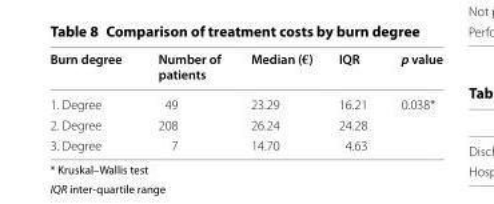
<table><thead><tr><td>Burn degree</td><td>Number of patients</td><td>Median (€)</td><td>IQR</td><td>p value</td></tr></thead><tbody><tr><td>1. Degree</td><td>49</td><td>23.29</td><td>16.21</td><td>0.038*</td></tr><tr><td>2. Degree</td><td>208</td><td>26.24</td><td>24.28</td><td></td></tr><tr><td>3. Degree</td><td>7</td><td>14.70</td><td>4.63</td><td></td></tr></tbody></table>